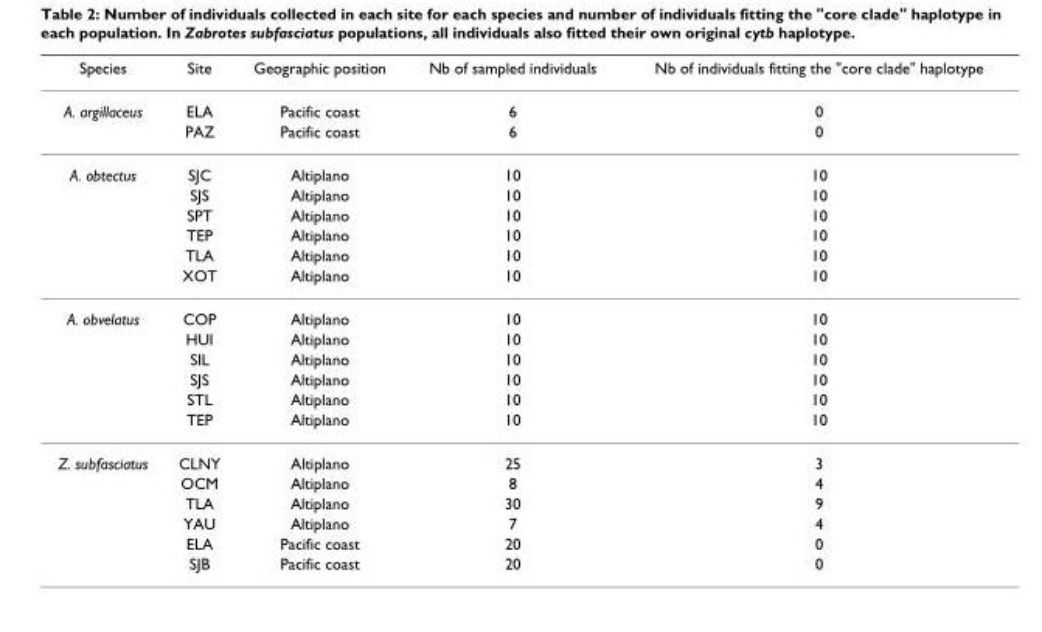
<table><thead><tr><td>Species</td><td>Site</td><td>Geographic position</td><td>Nb of sampled individuals</td><td>Nb of individuals fitting the &quot;core clade&quot; haplotype</td></tr></thead><tbody><tr><td rowspan="2">A. argillaceus</td><td>ELA</td><td>Pacific coast</td><td>6</td><td>0</td></tr><tr><td>PAZ</td><td>Pacific coast</td><td>6</td><td>0</td></tr><tr><td rowspan="6">A. obtectus</td><td>SJC</td><td>Altiplano</td><td>10</td><td>10</td></tr><tr><td>SJS</td><td>Altiplano</td><td>10</td><td>10</td></tr><tr><td>SPT</td><td>Altiplano</td><td>10</td><td>10</td></tr><tr><td>TEP</td><td>Altiplano</td><td>10</td><td>10</td></tr><tr><td>TLA</td><td>Altiplano</td><td>10</td><td>10</td></tr><tr><td>XOT</td><td>Altiplano</td><td>10</td><td>10</td></tr><tr><td rowspan="6">A. obvelatus</td><td>COP</td><td>Altiplano</td><td>10</td><td>10</td></tr><tr><td>HUI</td><td>Altiplano</td><td>10</td><td>10</td></tr><tr><td>SIL</td><td>Altiplano</td><td>10</td><td>10</td></tr><tr><td>SJS</td><td>Altiplano</td><td>10</td><td>10</td></tr><tr><td>STL</td><td>Altiplano</td><td>10</td><td>10</td></tr><tr><td>TEP</td><td>Altiplano</td><td>10</td><td>10</td></tr><tr><td rowspan="6">Z. subfasciatus</td><td>CLNY</td><td>Altiplano</td><td>25</td><td>3</td></tr><tr><td>OCM</td><td>Altiplano</td><td>8</td><td>4</td></tr><tr><td>TLA</td><td>Altiplano</td><td>30</td><td>9</td></tr><tr><td>YAU</td><td>Altiplano</td><td>7</td><td>4</td></tr><tr><td>ELA</td><td>Pacific coast</td><td>20</td><td>0</td></tr><tr><td>SJB</td><td>Pacific coast</td><td>20</td><td>0</td></tr></tbody></table>